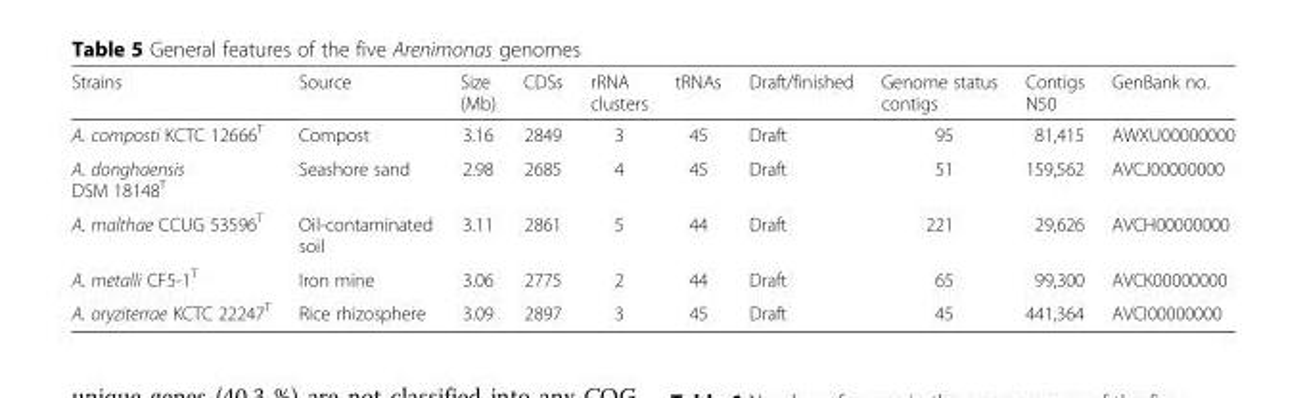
<table><thead><tr><td>Strains</td><td>Source</td><td>Size (Mb)</td><td>CDSs</td><td>rRNA clusters</td><td>tRNAs</td><td>Draft/finished</td><td>Genome status contigs</td><td>Contigs N50</td><td>GenBank no.</td></tr></thead><tbody><tr><td>A. composti KCTC 12666<sup>T</sup></td><td>Compost</td><td>3.16</td><td>2849</td><td>3</td><td>45</td><td>Draft</td><td>95</td><td>81,415</td><td>AWXU00000000</td></tr><tr><td>A. donghaensis DSM 18148<sup>T</sup></td><td>Seashore sand</td><td>2.98</td><td>2685</td><td>4</td><td>45</td><td>Draft</td><td>51</td><td>159,562</td><td>AVCJ00000000</td></tr><tr><td>A. malthae CCUG 53596<sup>T</sup></td><td>Oil-contaminated soil</td><td>3.11</td><td>2861</td><td>5</td><td>44</td><td>Draft</td><td>221</td><td>29,626</td><td>AVCH00000000</td></tr><tr><td>A. metalli CF5-1<sup>T</sup></td><td>Iron mine</td><td>3.06</td><td>2775</td><td>2</td><td>44</td><td>Draft</td><td>65</td><td>99,300</td><td>AVCK00000000</td></tr><tr><td>A. oryziterrae KCTC 22247<sup>T</sup></td><td>Rice rhizosphere</td><td>3.09</td><td>2897</td><td>3</td><td>45</td><td>Draft</td><td>45</td><td>441,364</td><td>AVCI00000000</td></tr></tbody></table>